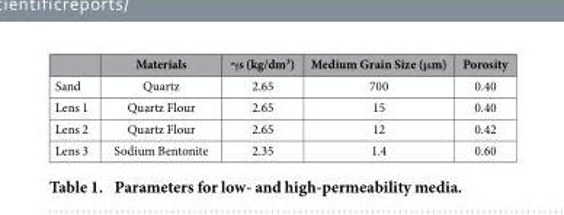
<table><thead><tr><td></td><td>Materials</td><td>γs (kg/dm<sup>3</sup>)</td><td>Medium Grain Size (μm)</td><td>Porosity</td></tr></thead><tbody><tr><td>Sand</td><td>Quartz</td><td>2.65</td><td>700</td><td>0.40</td></tr><tr><td>Lens 1</td><td>Quartz Flour</td><td>2.65</td><td>15</td><td>0.40</td></tr><tr><td>Lens 2</td><td>Quartz Flour</td><td>2.65</td><td>12</td><td>0.42</td></tr><tr><td>Lens 3</td><td>Sodium Bentonite</td><td>2.35</td><td>1.4</td><td>0.60</td></tr></tbody></table>